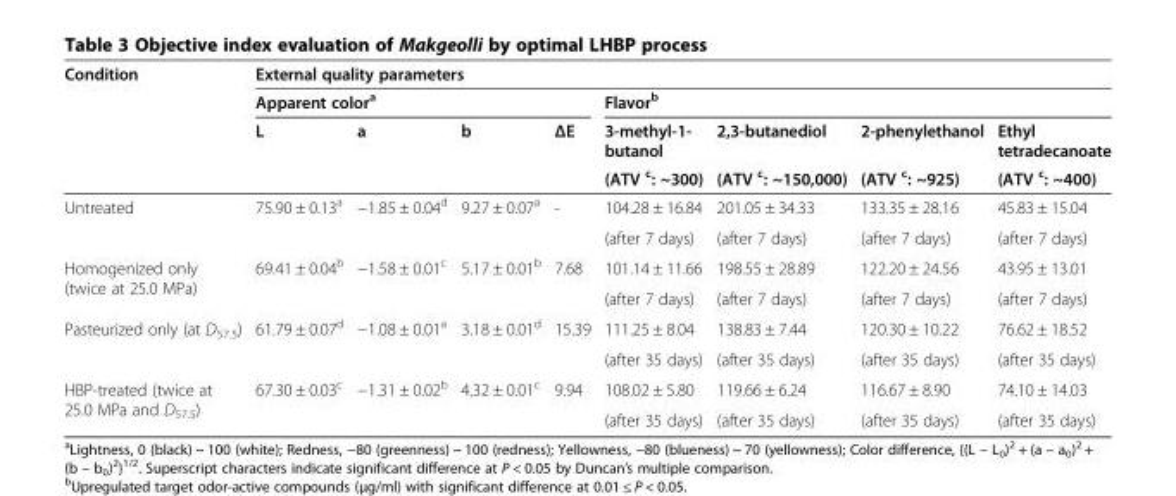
<table><thead><tr><td rowspan="4">Condition</td><td colspan="8">External quality parameters</td></tr><tr><td colspan="4">Apparent color<sup>a</sup></td><td colspan="4">Flavor<sup>b</sup></td></tr><tr><td rowspan="2">L</td><td rowspan="2">a</td><td rowspan="2">b</td><td rowspan="2">ΔE</td><td rowspan="2">3-methyl-1- butanol (ATV <sup>c</sup>: ~300)</td><td rowspan="2">2,3-butanediol (ATV <sup>c</sup>: ~150,000)</td><td rowspan="2">2-phenylethanol (ATV <sup>c</sup>: ~925)</td><td rowspan="2">Ethyl tetradecanoate (ATV <sup>c</sup>: ~400)</td></tr><tr></tr></thead><tbody><tr><td rowspan="2">Untreated</td><td rowspan="2">75.90 ± 0.13<sup>a</sup></td><td rowspan="2">−1.85 ± 0.04<sup>d</sup></td><td rowspan="2">9.27 ± 0.07<sup>a</sup></td><td rowspan="2">-</td><td>104.28 ± 16.84</td><td>201.05 ± 34.33</td><td>133.35 ± 28.16</td><td>45.83 ± 15.04</td></tr><tr><td>(after 7 days)</td><td>(after 7 days)</td><td>(after 7 days)</td><td>(after 7 days)</td></tr><tr><td rowspan="2">Homogenized only (twice at 25.0 MPa)</td><td rowspan="2">69.41 ± 0.04<sup>b</sup></td><td rowspan="2">−1.58 ± 0.01<sup>c</sup></td><td rowspan="2">5.17 ± 0.01<sup>b</sup></td><td rowspan="2">7.68</td><td>101.14 ± 11.66</td><td>198.55 ± 28.89</td><td>122.20 ± 24.56</td><td>43.95 ± 13.01</td></tr><tr><td>(after 7 days)</td><td>(after 7 days)</td><td>(after 7 days)</td><td>(after 7 days)</td></tr><tr><td rowspan="2">Pasteurized only (at D<sub>57.5</sub>)</td><td rowspan="2">61.79 ± 0.07<sup>d</sup></td><td rowspan="2">−1.08 ± 0.01<sup>a</sup></td><td rowspan="2">3.18 ± 0.01<sup>d</sup></td><td rowspan="2">15.39</td><td>111.25 ± 8.04</td><td>138.83 ± 7.44</td><td>120.30 ± 10.22</td><td>76.62 ± 18.52</td></tr><tr><td>(after 35 days)</td><td>(after 35 days)</td><td>(after 35 days)</td><td>(after 35 days)</td></tr><tr><td rowspan="2">HBP-treated (twice at 25.0 MPa and D<sub>57.5</sub>)</td><td rowspan="2">67.30 ± 0.03<sup>c</sup></td><td rowspan="2">−1.31 ± 0.02<sup>b</sup></td><td rowspan="2">4.32 ± 0.01<sup>c</sup></td><td rowspan="2">9.94</td><td>108.02 ± 5.80</td><td>119.66 ± 6.24</td><td>116.67 ± 8.90</td><td>74.10 ± 14.03</td></tr><tr><td>(after 35 days)</td><td>(after 35 days)</td><td>(after 35 days)</td><td>(after 35 days)</td></tr></tbody></table>